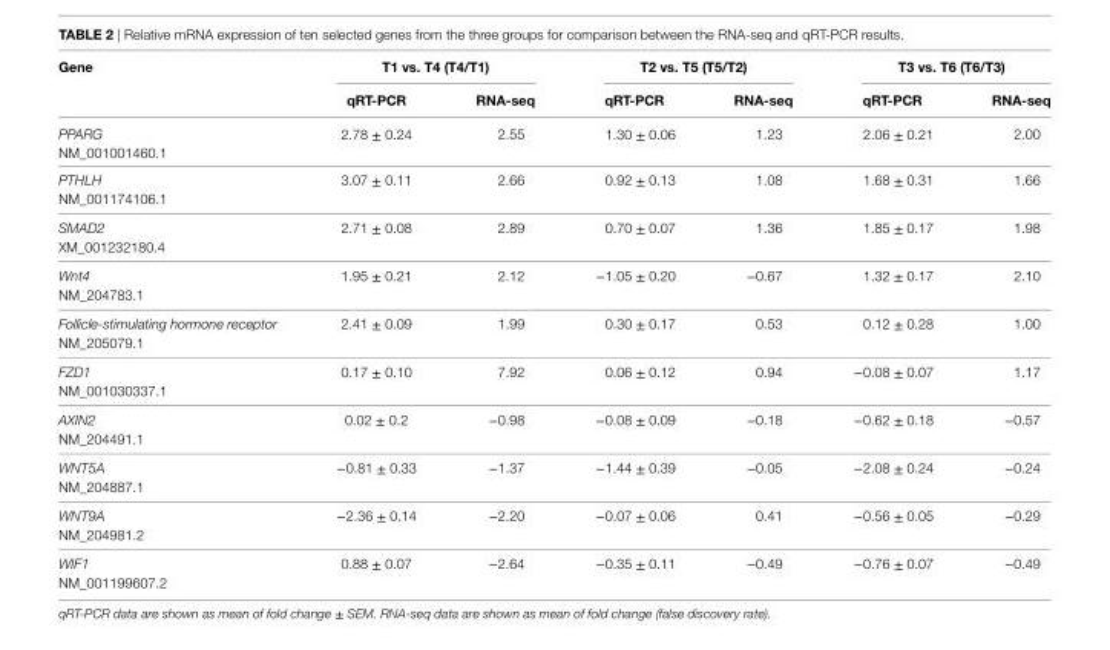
<table><thead><tr><td rowspan="2">gene</td><td colspan="2">T1 vs. T4 (T4/T1)</td><td colspan="2">T2 vs. T5 (T5/T2)</td><td colspan="2">T3 vs. T6 (T6/T3)</td></tr><tr><td>qrT-Pcr</td><td>rna-seq</td><td>qrT-Pcr</td><td>rna-seq</td><td>qrT-Pcr</td><td>rna-seq</td></tr></thead><tbody><tr><td>PPARG</td><td rowspan="2">2.78 ± 0.24</td><td rowspan="2">2.55</td><td rowspan="2">1.30 ± 0.06</td><td rowspan="2">1.23</td><td rowspan="2">2.06 ± 0.21</td><td rowspan="2">2.00</td></tr><tr><td>NM_001001460.1</td></tr><tr><td>PTHLH</td><td rowspan="2">3.07 ± 0.11</td><td rowspan="2">2.66</td><td rowspan="2">0.92 ± 0.13</td><td rowspan="2">1.08</td><td rowspan="2">1.68 ± 0.31</td><td rowspan="2">1.66</td></tr><tr><td>NM_001174106.1</td></tr><tr><td>SMAD2</td><td rowspan="2">2.71 ± 0.08</td><td rowspan="2">2.89</td><td rowspan="2">0.70 ± 0.07</td><td rowspan="2">1.36</td><td rowspan="2">1.85 ± 0.17</td><td rowspan="2">1.98</td></tr><tr><td>XM_001232180.4</td></tr><tr><td>Wnt4</td><td rowspan="2">1.95 ± 0.21</td><td rowspan="2">2.12</td><td rowspan="2">−1.05 ± 0.20</td><td rowspan="2">−0.67</td><td rowspan="2">1.32 ± 0.17</td><td rowspan="2">2.10</td></tr><tr><td>NM_204783.1</td></tr><tr><td>Follicle-stimulating hormone receptor</td><td rowspan="2">2.41 ± 0.09</td><td rowspan="2">1.99</td><td rowspan="2">0.30 ± 0.17</td><td rowspan="2">0.53</td><td rowspan="2">0.12 ± 0.28</td><td rowspan="2">1.00</td></tr><tr><td>NM_205079.1</td></tr><tr><td>FZD1</td><td rowspan="2">0.17 ± 0.10</td><td rowspan="2">7.92</td><td rowspan="2">0.06 ± 0.12</td><td rowspan="2">0.94</td><td rowspan="2">−0.08 ± 0.07</td><td rowspan="2">1.17</td></tr><tr><td>NM_001030337.1</td></tr><tr><td>AXIN2</td><td rowspan="2">0.02 ± 0.2</td><td rowspan="2">−0.98</td><td rowspan="2">−0.08 ± 0.09</td><td rowspan="2">−0.18</td><td rowspan="2">−0.62 ± 0.18</td><td rowspan="2">−0.57</td></tr><tr><td>NM_204491.1</td></tr><tr><td>WNT5A</td><td rowspan="2">−0.81 ± 0.33</td><td rowspan="2">−1.37</td><td rowspan="2">−1.44 ± 0.39</td><td rowspan="2">−0.05</td><td rowspan="2">−2.08 ± 0.24</td><td rowspan="2">−0.24</td></tr><tr><td>NM_204887.1</td></tr><tr><td>WNT9A</td><td rowspan="2">−2.36 ± 0.14</td><td rowspan="2">−2.20</td><td rowspan="2">−0.07 ± 0.06</td><td rowspan="2">0.41</td><td rowspan="2">−0.56 ± 0.05</td><td rowspan="2">−0.29</td></tr><tr><td>NM_204981.2</td></tr><tr><td>WIF1</td><td rowspan="2">0.88 ± 0.07</td><td rowspan="2">−2.64</td><td rowspan="2">−0.35 ± 0.11</td><td rowspan="2">−0.49</td><td rowspan="2">−0.76 ± 0.07</td><td rowspan="2">−0.49</td></tr><tr><td>NM_001199607.2</td></tr></tbody></table>